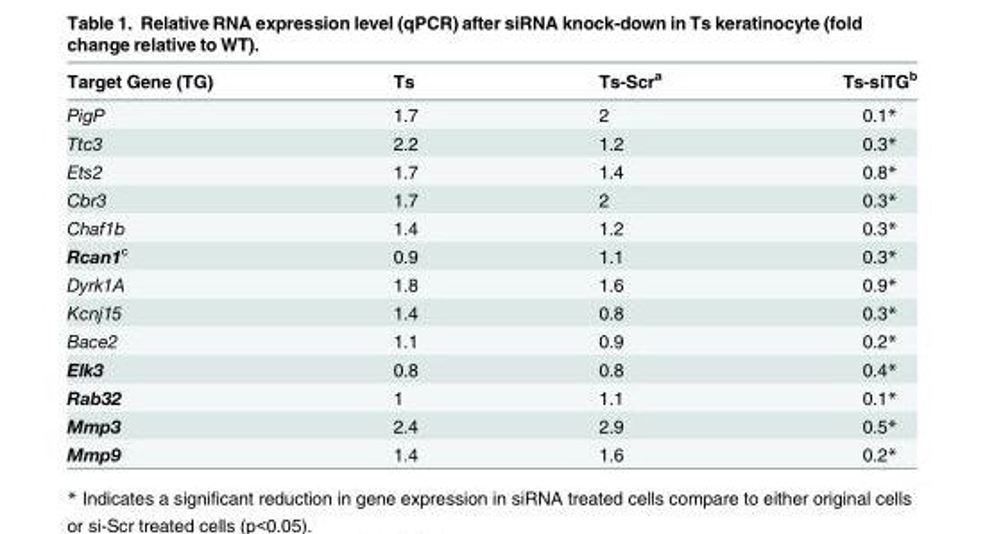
<table><thead><tr><td>Target Gene (TG)</td><td>Ts</td><td>Ts-Scr<sup>a</sup></td><td>Ts-siTG<sup>b</sup></td></tr></thead><tbody><tr><td>PigP</td><td>1.7</td><td>2</td><td>0.1*</td></tr><tr><td>Ttc3</td><td>2.2</td><td>1.2</td><td>0.3*</td></tr><tr><td>Ets2</td><td>1.7</td><td>1.4</td><td>0.8*</td></tr><tr><td>Cbr3</td><td>1.7</td><td>2</td><td>0.3*</td></tr><tr><td>Chaf1b</td><td>1.4</td><td>1.2</td><td>0.3*</td></tr><tr><td>Rcan1<sup>c</sup></td><td>0.9</td><td>1.1</td><td>0.3*</td></tr><tr><td>Dyrk1A</td><td>1.8</td><td>1.6</td><td>0.9*</td></tr><tr><td>Kcnj15</td><td>1.4</td><td>0.8</td><td>0.3*</td></tr><tr><td>Bace2</td><td>1.1</td><td>0.9</td><td>0.2*</td></tr><tr><td>Elk3</td><td>0.8</td><td>0.8</td><td>0.4*</td></tr><tr><td>Rab32</td><td>1</td><td>1.1</td><td>0.1*</td></tr><tr><td>Mmp3</td><td>2.4</td><td>2.9</td><td>0.5*</td></tr><tr><td>Mmp9</td><td>1.4</td><td>1.6</td><td>0.2*</td></tr></tbody></table>